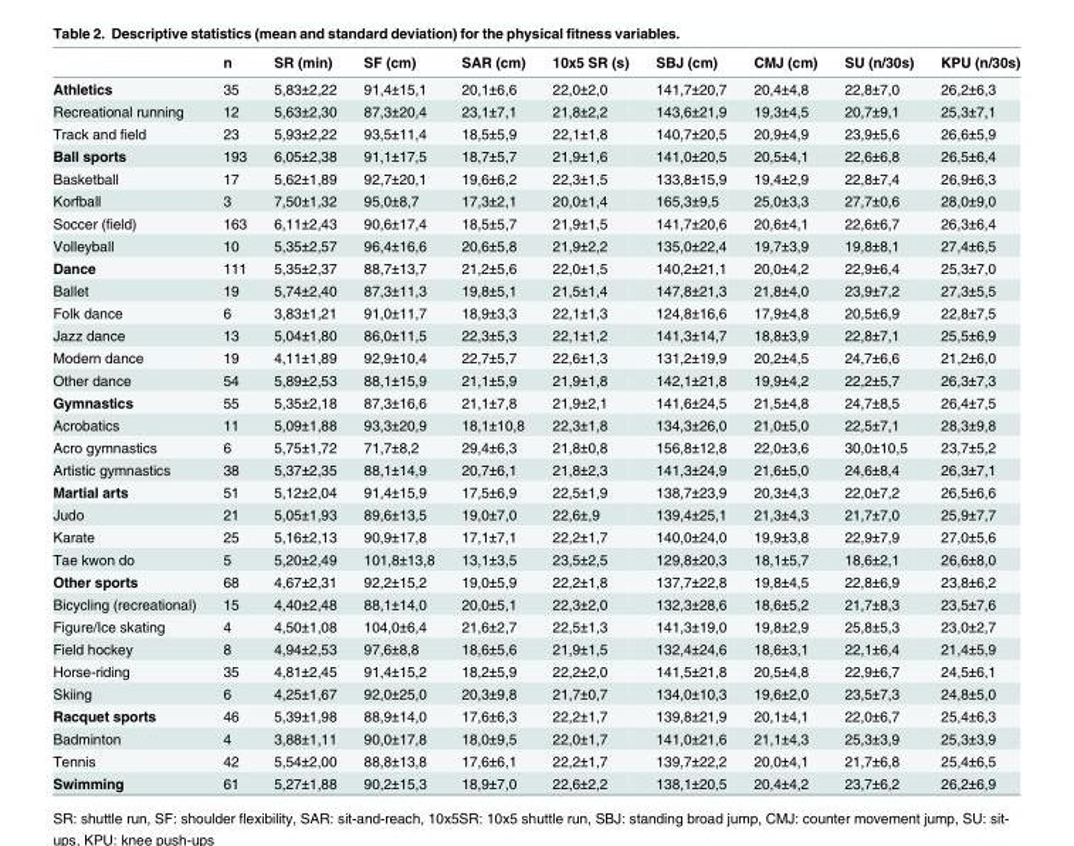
<table><thead><tr><td></td><td>n</td><td>SR (min)</td><td>SF (cm)</td><td>SAR (cm)</td><td>10x5 SR (s)</td><td>SBJ (cm)</td><td>CMJ (cm)</td><td>SU (n/30s)</td><td>KPU (n/30s)</td></tr></thead><tbody><tr><td>Athletics</td><td>35</td><td>5,83±2,22</td><td>91,4±15,1</td><td>20,1±6,6</td><td>22,0±2,0</td><td>141,7±20,7</td><td>20,4±4,8</td><td>22,8±7,0</td><td>26,2±6,3</td></tr><tr><td>Recreational running</td><td>12</td><td>5,63±2,30</td><td>87,3±20,4</td><td>23,1±7,1</td><td>21,8±2,2</td><td>143,6±21,9</td><td>19,3±4,5</td><td>20,7±9,1</td><td>25,3±7,1</td></tr><tr><td>Track and field</td><td>23</td><td>5,93±2,22</td><td>93,5±11,4</td><td>18,5±5,9</td><td>22,1±1,8</td><td>140,7±20,5</td><td>20,9±4,9</td><td>23,9±5,6</td><td>26,6±5,9</td></tr><tr><td>Ball sports</td><td>193</td><td>6,05±2,38</td><td>91,1±17,5</td><td>18,7±5,7</td><td>21,9±1,6</td><td>141,0±20,5</td><td>20,5±4,1</td><td>22,6±6,8</td><td>26,5±6,4</td></tr><tr><td>Basketball</td><td>17</td><td>5,62±1,89</td><td>92,7±20,1</td><td>19,6±6,2</td><td>22,3±1,5</td><td>133,8±15,9</td><td>19,4±2,9</td><td>22,8±7,4</td><td>26,9±6,3</td></tr><tr><td>Korfball</td><td>3</td><td>7,50±1,32</td><td>95,0±8,7</td><td>17,3±2,1</td><td>20,0±1,4</td><td>165,3±9,5</td><td>25,0±3,3</td><td>27,7±0,6</td><td>28,0±9,0</td></tr><tr><td>Soccer (field)</td><td>163</td><td>6,11±2,43</td><td>90,6±17,4</td><td>18,5±5,7</td><td>21,9±1,5</td><td>141,7±20,6</td><td>20,6±4,1</td><td>22,6±6,7</td><td>26,3±6,4</td></tr><tr><td>Volleyball</td><td>10</td><td>5,35±2,57</td><td>96,4±16,6</td><td>20,6±5,8</td><td>21,9±2,2</td><td>135,0±22,4</td><td>19,7±3,9</td><td>19,8±8,1</td><td>27,4±6,5</td></tr><tr><td>Dance</td><td>111</td><td>5,35±2,37</td><td>88,7±13,7</td><td>21,2±5,6</td><td>22,0±1,5</td><td>140,2±21,1</td><td>20,0±4,2</td><td>22,9±6,4</td><td>25,3±7,0</td></tr><tr><td>Ballet</td><td>19</td><td>5,74±2,40</td><td>87,3±11,3</td><td>19,8±5,1</td><td>21,5±1,4</td><td>147,8±21,3</td><td>21,8±4,0</td><td>23,9±7,2</td><td>27,3±5,5</td></tr><tr><td>Folk dance</td><td>6</td><td>3,83±1,21</td><td>91,0±11,7</td><td>18,9±3,3</td><td>22,1±1,3</td><td>124,8±16,6</td><td>17,9±4,8</td><td>20,5±6,9</td><td>22,8±7,5</td></tr><tr><td>Jazz dance</td><td>13</td><td>5,04±1,80</td><td>86,0±11,5</td><td>22,3±5,3</td><td>22,1±1,2</td><td>141,3±14,7</td><td>18,8±3,9</td><td>22,8±7,1</td><td>25,5±6,9</td></tr><tr><td>Modern dance</td><td>19</td><td>4,11±1,89</td><td>92,9±10,4</td><td>22,7±5,7</td><td>22,6±1,3</td><td>131,2±19,9</td><td>20,2±4,5</td><td>24,7±6,6</td><td>21,2±6,0</td></tr><tr><td>Other dance</td><td>54</td><td>5,89±2,53</td><td>88,1±15,9</td><td>21,1±5,9</td><td>21,9±1,8</td><td>142,1±21,8</td><td>19,9±4,2</td><td>22,2±5,7</td><td>26,3±7,3</td></tr><tr><td>Gymnastics</td><td>55</td><td>5,35±2,18</td><td>87,3±16,6</td><td>21,1±7,8</td><td>21,9±2,1</td><td>141,6±24,5</td><td>21,5±4,8</td><td>24,7±8,5</td><td>26,4±7,5</td></tr><tr><td>Acrobatics</td><td>11</td><td>5,09±1,88</td><td>93,3±20,9</td><td>18,1±10,8</td><td>22,3±1,8</td><td>134,3±26,0</td><td>21,0±5,0</td><td>22,5±7,1</td><td>28,3±9,8</td></tr><tr><td>Acro gymnastics</td><td>6</td><td>5,75±1,72</td><td>71,7±8,2</td><td>29,4±6,3</td><td>21,8±0,8</td><td>156,8±12,8</td><td>22,0±3,6</td><td>30,0±10,5</td><td>23,7±5,2</td></tr><tr><td>Artistic gymnastics</td><td>38</td><td>5,37±2,35</td><td>88,1±14,9</td><td>20,7±6,1</td><td>21,8±2,3</td><td>141,3±24,9</td><td>21,6±5,0</td><td>24,6±8,4</td><td>26,3±7,1</td></tr><tr><td>Martial arts</td><td>51</td><td>5,12±2,04</td><td>91,4±15,9</td><td>17,5±6,9</td><td>22,5±1,9</td><td>138,7±23,9</td><td>20,3±4,3</td><td>22,0±7,2</td><td>26,5±6,6</td></tr><tr><td>Judo</td><td>21</td><td>5,05±1,93</td><td>89,6±13,5</td><td>19,0±7,0</td><td>22,6±,9</td><td>139,4±25,1</td><td>21,3±4,3</td><td>21,7±7,0</td><td>25,9±7,7</td></tr><tr><td>Karate</td><td>25</td><td>5,16±2,13</td><td>90,9±17,8</td><td>17,1±7,1</td><td>22,2±1,7</td><td>140,0±24,0</td><td>19,9±3,8</td><td>22,9±7,9</td><td>27,0±5,6</td></tr><tr><td>Tae kwon do</td><td>5</td><td>5,20±2,49</td><td>101,8±13,8</td><td>13,1±3,5</td><td>23,5±2,5</td><td>129,8±20,3</td><td>18,1±5,7</td><td>18,6±2,1</td><td>26,6±8,0</td></tr><tr><td>Other sports</td><td>68</td><td>4,67±2,31</td><td>92,2±15,2</td><td>19,0±5,9</td><td>22,2±1,8</td><td>137,7±22,8</td><td>19,8±4,5</td><td>22,8±6,9</td><td>23,8±6,2</td></tr><tr><td>Bicycling (recreational)</td><td>15</td><td>4,40±2,48</td><td>88,1±14,0</td><td>20,0±5,1</td><td>22,3±2,0</td><td>132,3±28,6</td><td>18,6±5,2</td><td>21,7±8,3</td><td>23,5±7,6</td></tr><tr><td>Figure/Ice skating</td><td>4</td><td>4,50±1,08</td><td>104,0±6,4</td><td>21,6±2,7</td><td>22,5±1,3</td><td>141,3±19,0</td><td>19,8±2,9</td><td>25,8±5,3</td><td>23,0±2,7</td></tr><tr><td>Field hockey</td><td>8</td><td>4,94±2,53</td><td>97,6±8,8</td><td>18,6±5,6</td><td>21,9±1,5</td><td>132,4±24,6</td><td>18,6±3,1</td><td>22,1±6,4</td><td>21,4±5,9</td></tr><tr><td>Horse-riding</td><td>35</td><td>4,81±2,45</td><td>91,4±15,2</td><td>18,2±5,9</td><td>22,2±2,0</td><td>141,5±21,8</td><td>20,5±4,8</td><td>22,9±6,7</td><td>24,5±6,1</td></tr><tr><td>Skiing</td><td>6</td><td>4,25±1,67</td><td>92,0±25,0</td><td>20,3±9,8</td><td>21,7±0,7</td><td>134,0±10,3</td><td>19,6±2,0</td><td>23,5±7,3</td><td>24,8±5,0</td></tr><tr><td>Racquet sports</td><td>46</td><td>5,39±1,98</td><td>88,9±14,0</td><td>17,6±6,3</td><td>22,2±1,7</td><td>139,8±21,9</td><td>20,1±4,1</td><td>22,0±6,7</td><td>25,4±6,3</td></tr><tr><td>Badminton</td><td>4</td><td>3,88±1,11</td><td>90,0±17,8</td><td>18,0±9,5</td><td>22,0±1,7</td><td>141,0±21,6</td><td>21,1±4,3</td><td>25,3±3,9</td><td>25,3±3,9</td></tr><tr><td>Tennis</td><td>42</td><td>5,54±2,00</td><td>88,8±13,8</td><td>17,6±6,1</td><td>22,2±1,7</td><td>139,7±22,2</td><td>20,0±4,1</td><td>21,7±6,8</td><td>25,4±6,5</td></tr><tr><td>Swimming</td><td>61</td><td>5,27±1,88</td><td>90,2±15,3</td><td>18,9±7,0</td><td>22,6±2,2</td><td>138,1±20,5</td><td>20,4±4,2</td><td>23,7±6,2</td><td>26,2±6,9</td></tr></tbody></table>